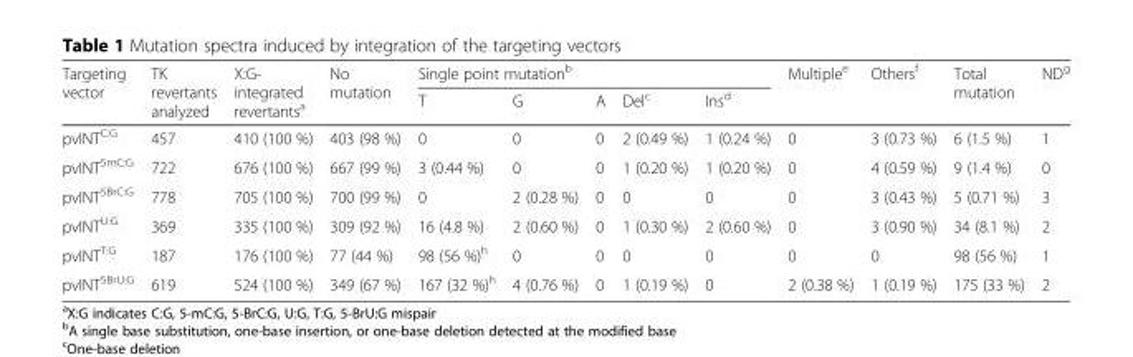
<table><thead><tr><td rowspan="2">Targeting vector</td><td rowspan="2">TK revertants analyzed</td><td rowspan="2">X:G- integrated revertants<sup>a</sup></td><td rowspan="2">No mutation</td><td colspan="5">Single point mutation<sup>b</sup></td><td rowspan="2">Multiple<sup>e</sup></td><td rowspan="2">Others<sup>f</sup></td><td rowspan="2">Total mutation</td><td rowspan="2">ND<sup>g</sup></td></tr><tr><td>T</td><td>G</td><td>A</td><td>Del<sup>c</sup></td><td>Ins<sup>d</sup></td></tr></thead><tbody><tr><td>pvINT<sup>C:G</sup></td><td>457</td><td>410 (100 %)</td><td>403 (98 %)</td><td>0</td><td>0</td><td>0</td><td>2 (0.49 %)</td><td>1 (0.24 %)</td><td>0</td><td>3 (0.73 %)</td><td>6 (1.5 %)</td><td>1</td></tr><tr><td>pvINT<sup>5mC:G</sup></td><td>722</td><td>676 (100 %)</td><td>667 (99 %)</td><td>3 (0.44 %)</td><td>0</td><td>0</td><td>1 (0.20 %)</td><td>1 (0.20 %)</td><td>0</td><td>4 (0.59 %)</td><td>9 (1.4 %)</td><td>0</td></tr><tr><td>pvINT<sup>5BrC:G</sup></td><td>778</td><td>705 (100 %)</td><td>700 (99 %)</td><td>0</td><td>2 (0.28 %)</td><td>0</td><td>0</td><td>0</td><td>0</td><td>3 (0.43 %)</td><td>5 (0.71 %)</td><td>3</td></tr><tr><td>pvINT<sup>U:G</sup></td><td>369</td><td>335 (100 %)</td><td>309 (92 %)</td><td>16 (4.8 %)</td><td>2 (0.60 %)</td><td>0</td><td>1 (0.30 %)</td><td>2 (0.60 %)</td><td>0</td><td>3 (0.90 %)</td><td>34 (8.1 %)</td><td>2</td></tr><tr><td>pvINT<sup>T:G</sup></td><td>187</td><td>176 (100 %)</td><td>77 (44 %)</td><td>98 (56 %)<sup>h</sup></td><td>0</td><td>0</td><td>0</td><td>0</td><td>0</td><td>0</td><td>98 (56 %)</td><td>1</td></tr><tr><td>pvINT<sup>5BrU:G</sup></td><td>619</td><td>524 (100 %)</td><td>349 (67 %)</td><td>167 (32 %)<sup>h</sup></td><td>4 (0.76 %)</td><td>0</td><td>1 (0.19 %)</td><td>0</td><td>2 (0.38 %)</td><td>1 (0.19 %)</td><td>175 (33 %)</td><td>2</td></tr></tbody></table>